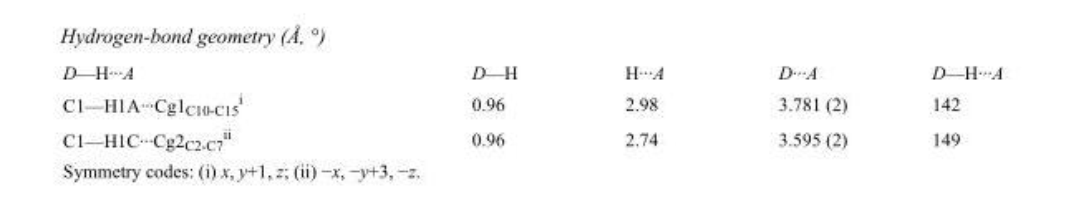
<table><tbody><tr><td>D—H···A</td><td>D—H</td><td>H···A</td><td>D···A</td><td>D—H···A</td></tr><tr><td>C1—H1A···Cg1<sub>C10-C15</sub> <sup>i</sup></td><td>0.96</td><td>2.98</td><td>3.781 (2)</td><td>142</td></tr><tr><td>C1—H1C···Cg2<sub>C2-C7</sub> <sup>ii</sup></td><td>0.96</td><td>2.74</td><td>3.595 (2)</td><td>149</td></tr></tbody></table>